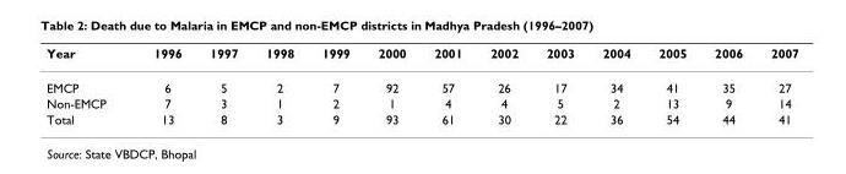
<table><thead><tr><td>Year</td><td>1996</td><td>1997</td><td>1998</td><td>1999</td><td>2000</td><td>2001</td><td>2002</td><td>2003</td><td>2004</td><td>2005</td><td>2006</td><td>2007</td></tr></thead><tbody><tr><td>EMCP</td><td>6</td><td>5</td><td>2</td><td>7</td><td>92</td><td>57</td><td>26</td><td>17</td><td>34</td><td>41</td><td>35</td><td>27</td></tr><tr><td>Non-EMCP</td><td>7</td><td>3</td><td>1</td><td>2</td><td>1</td><td>4</td><td>4</td><td>5</td><td>2</td><td>13</td><td>9</td><td>14</td></tr><tr><td>Total</td><td>13</td><td>8</td><td>3</td><td>9</td><td>93</td><td>61</td><td>30</td><td>22</td><td>36</td><td>54</td><td>44</td><td>41</td></tr></tbody></table>